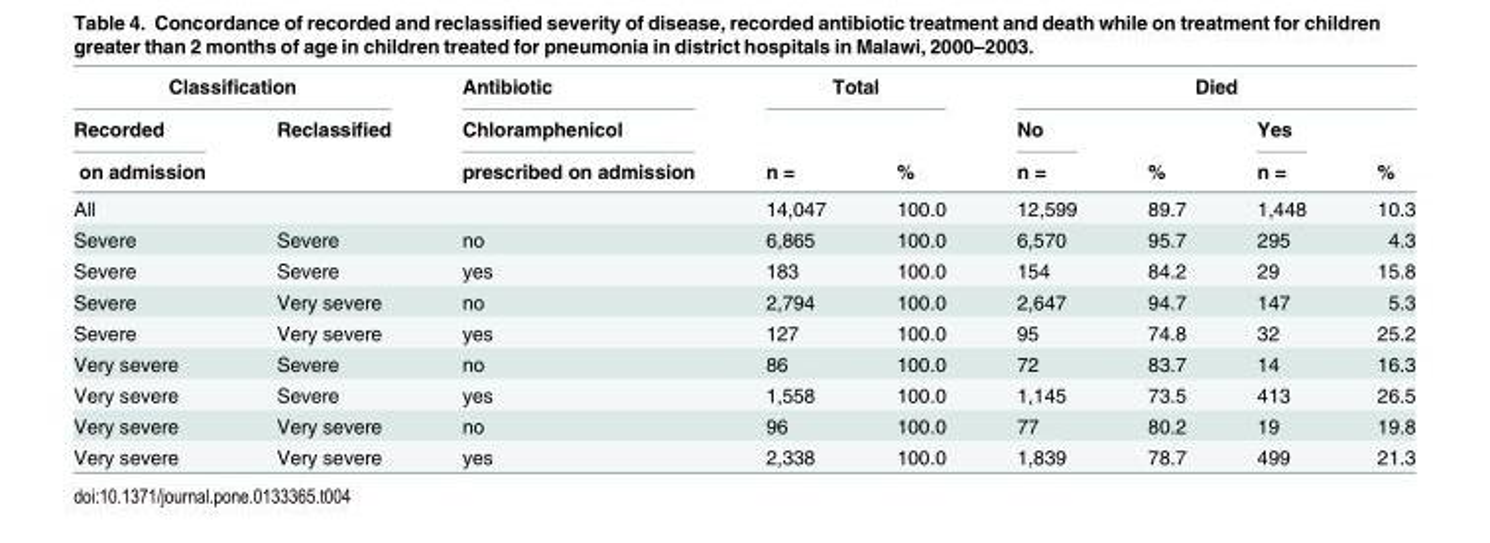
<table><thead><tr><td colspan="2">Classification</td><td rowspan="3">Antibiotic Chloramphenicol prescribed on admission</td><td colspan="2">Total</td><td colspan="4">Died</td></tr><tr><td rowspan="2">Recorded on admission</td><td rowspan="2">Reclassified</td><td rowspan="2">n =</td><td rowspan="2">%</td><td rowspan="2">No n =</td><td rowspan="2">%</td><td rowspan="2">Yes n =</td><td rowspan="2">%</td></tr><tr></tr></thead><tbody><tr><td>All</td><td></td><td></td><td>14,047</td><td>100.0</td><td>12,599</td><td>89.7</td><td>1,448</td><td>10.3</td></tr><tr><td>Severe</td><td>Severe</td><td>no</td><td>6,865</td><td>100.0</td><td>6,570</td><td>95.7</td><td>295</td><td>4.3</td></tr><tr><td>Severe</td><td>Severe</td><td>yes</td><td>183</td><td>100.0</td><td>154</td><td>84.2</td><td>29</td><td>15.8</td></tr><tr><td>Severe</td><td>Very severe</td><td>no</td><td>2,794</td><td>100.0</td><td>2,647</td><td>94.7</td><td>147</td><td>5.3</td></tr><tr><td>Severe</td><td>Very severe</td><td>yes</td><td>127</td><td>100.0</td><td>95</td><td>74.8</td><td>32</td><td>25.2</td></tr><tr><td>Very severe</td><td>Severe</td><td>no</td><td>86</td><td>100.0</td><td>72</td><td>83.7</td><td>14</td><td>16.3</td></tr><tr><td>Very severe</td><td>Severe</td><td>yes</td><td>1,558</td><td>100.0</td><td>1,145</td><td>73.5</td><td>413</td><td>26.5</td></tr><tr><td>Very severe</td><td>Very severe</td><td>no</td><td>96</td><td>100.0</td><td>77</td><td>80.2</td><td>19</td><td>19.8</td></tr><tr><td>Very severe</td><td>Very severe</td><td>yes</td><td>2,338</td><td>100.0</td><td>1,839</td><td>78.7</td><td>499</td><td>21.3</td></tr></tbody></table>